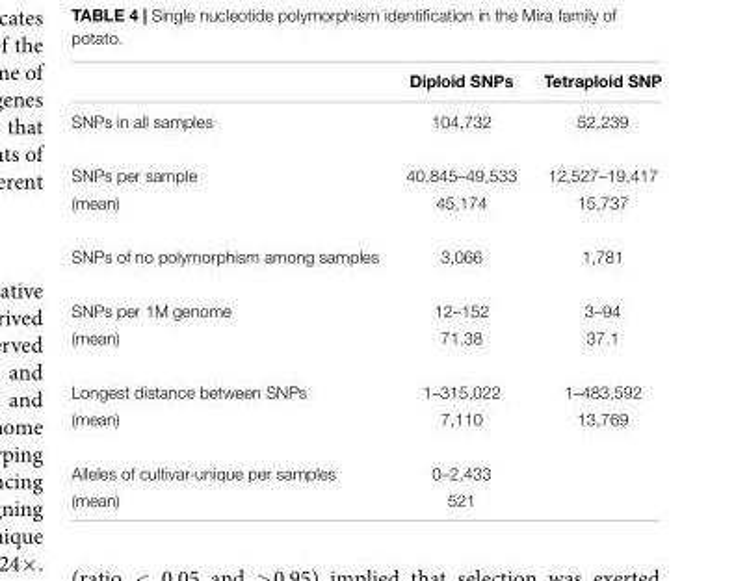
<table><thead><tr><td></td><td>Diploid SNPs</td><td>Tetraploid SNP</td></tr></thead><tbody><tr><td>SNPs in all samples</td><td>104,732</td><td>52,239</td></tr><tr><td>SNPs per sample</td><td>40,845–49,533</td><td>12,527–19,417</td></tr><tr><td>(mean)</td><td>45,174</td><td>15,737</td></tr><tr><td>SNPs of no polymorphism among samples</td><td>3,066</td><td>1,781</td></tr><tr><td>SNPs per 1M genome</td><td>12–152</td><td>3–94</td></tr><tr><td>(mean)</td><td>71.38</td><td>37.1</td></tr><tr><td>Longest distance between SNPs</td><td>1–315,022</td><td>1–483,592</td></tr><tr><td>(mean)</td><td>7,110</td><td>13,769</td></tr><tr><td>Alleles of cultivar-unique per samples</td><td>0–2,433</td><td></td></tr><tr><td>(mean)</td><td>521</td><td></td></tr></tbody></table>